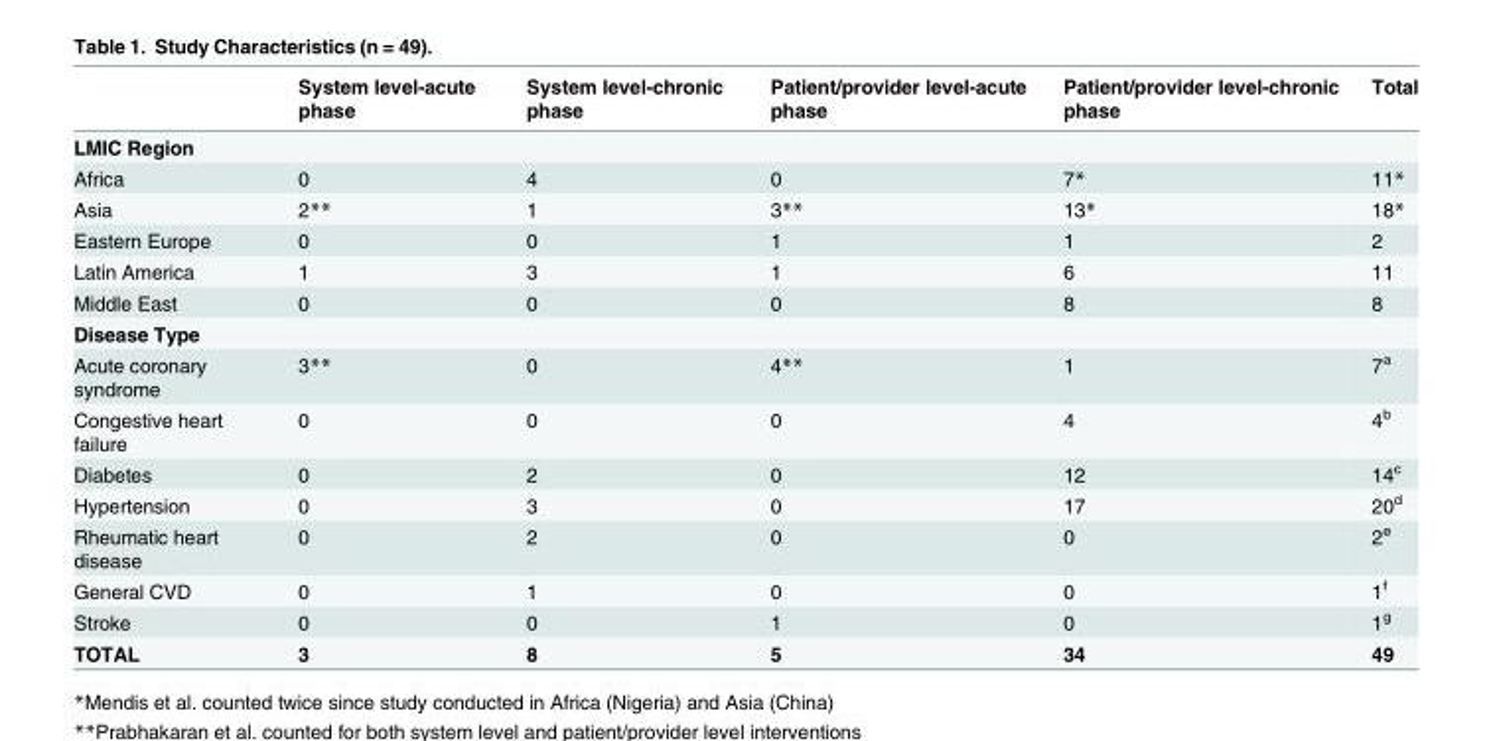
<table><thead><tr><td></td><td>System level-acute phase</td><td>System level-chronic phase</td><td>Patient/provider level-acute phase</td><td>Patient/provider level-chronic phase</td><td>Total</td></tr></thead><tbody><tr><td colspan="6">LMIC Region</td></tr><tr><td>Africa</td><td>0</td><td>4</td><td>0</td><td>7*</td><td>11*</td></tr><tr><td>Asia</td><td>2**</td><td>1</td><td>3**</td><td>13*</td><td>18*</td></tr><tr><td>Eastern Europe</td><td>0</td><td>0</td><td>1</td><td>1</td><td>2</td></tr><tr><td>Latin America</td><td>1</td><td>3</td><td>1</td><td>6</td><td>11</td></tr><tr><td>Middle East</td><td>0</td><td>0</td><td>0</td><td>8</td><td>8</td></tr><tr><td colspan="6">Disease Type</td></tr><tr><td>Acute coronary syndrome</td><td>3**</td><td>0</td><td>4**</td><td>1</td><td>7<sup>a</sup></td></tr><tr><td>Congestive heart failure</td><td>0</td><td>0</td><td>0</td><td>4</td><td>4<sup>b</sup></td></tr><tr><td>Diabetes</td><td>0</td><td>2</td><td>0</td><td>12</td><td>14<sup>c</sup></td></tr><tr><td>Hypertension</td><td>0</td><td>3</td><td>0</td><td>17</td><td>20<sup>d</sup></td></tr><tr><td>Rheumatic heart disease</td><td>0</td><td>2</td><td>0</td><td>0</td><td>2<sup>e</sup></td></tr><tr><td>General CVD</td><td>0</td><td>1</td><td>0</td><td>0</td><td>1<sup>f</sup></td></tr><tr><td>Stroke</td><td>0</td><td>0</td><td>1</td><td>0</td><td>1<sup>g</sup></td></tr><tr><td>TOTAL</td><td>3</td><td>8</td><td>5</td><td>34</td><td>49</td></tr></tbody></table>